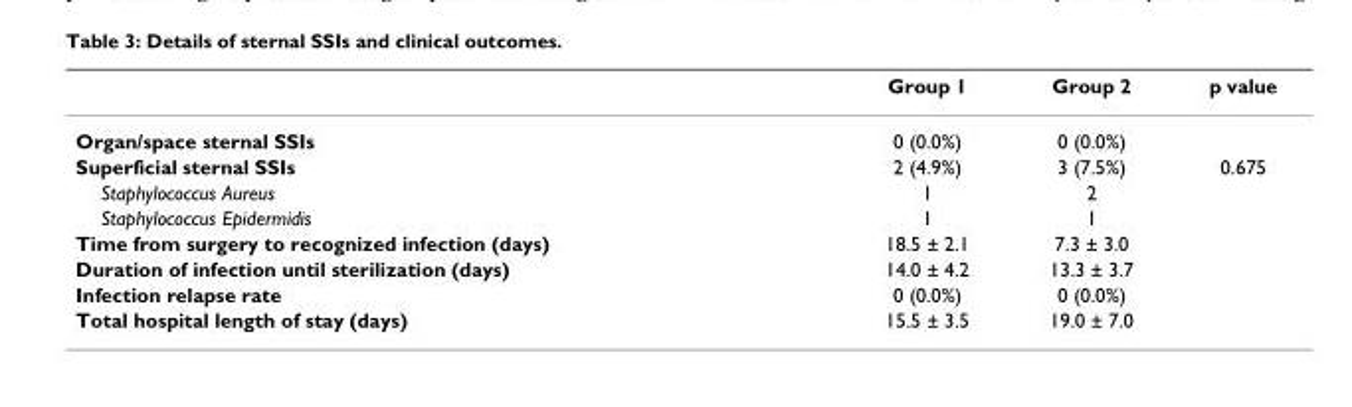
<table><thead><tr><td></td><td>Group 1</td><td>Group 2</td><td>p value</td></tr></thead><tbody><tr><td>Organ/space sternal SSIs</td><td>0 (0.0%)</td><td>0 (0.0%)</td><td></td></tr><tr><td>Superficial sternal SSIs</td><td>2 (4.9%)</td><td>3 (7.5%)</td><td>0.675</td></tr><tr><td>Staphylococcus Aureus</td><td>1</td><td>2</td><td></td></tr><tr><td>Staphylococcus Epidermidis</td><td>1</td><td>1</td><td></td></tr><tr><td>Time from surgery to recognized infection (days)</td><td>18.5 ± 2.1</td><td>7.3 ± 3.0</td><td></td></tr><tr><td>Duration of infection until sterilization (days)</td><td>14.0 ± 4.2</td><td>13.3 ± 3.7</td><td></td></tr><tr><td>Infection relapse rate</td><td>0 (0.0%)</td><td>0 (0.0%)</td><td></td></tr><tr><td>Total hospital length of stay (days)</td><td>15.5 ± 3.5</td><td>19.0 ± 7.0</td><td></td></tr></tbody></table>